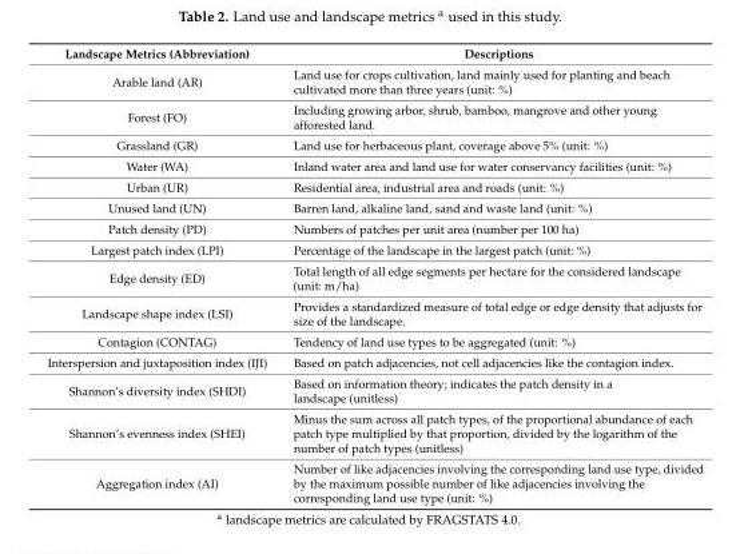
<table><thead><tr><td>Landscape Metrics (Abbreviation)</td><td>Descriptions</td></tr></thead><tbody><tr><td>Arable land (AR)</td><td>Land use for crops cultivation, land mainly used for planting and beach cultivated more than three years (unit: %)</td></tr><tr><td>Forest (FO)</td><td>Including growing arbor, shrub, bamboo, mangrove and other young afforested land.</td></tr><tr><td>Grassland (GR)</td><td>Land use for herbaceous plant, coverage above 5% (unit: %)</td></tr><tr><td>Water (WA)</td><td>Inland water area and land use for water conservancy facilities (unit: %)</td></tr><tr><td>Urban (UR)</td><td>Residential area, industrial area and roads (unit: %)</td></tr><tr><td>Unused land (UN)</td><td>Barren land, alkaline land, sand and waste land (unit: %)</td></tr><tr><td>Patch density (PD)</td><td>Numbers of patches per unit area (number per 100 ha)</td></tr><tr><td>Largest patch index (LPI)</td><td>Percentage of the landscape in the largest patch (unit: %)</td></tr><tr><td>Edge density (ED)</td><td>Total length of all edge segments per hectare for the considered landscape (unit: m/ha)</td></tr><tr><td>Landscape shape index (LSI)</td><td>Provides a standardized measure of total edge or edge density that adjusts for size of the landscape.</td></tr><tr><td>Contagion (CONTAG)</td><td>Tendency of land use types to be aggregated (unit: %)</td></tr><tr><td>Interspersion and juxtaposition index (IJI)</td><td>Based on patch adjacencies, not cell adjacencies like the contagion index.</td></tr><tr><td>Shannon’s diversity index (SHDI)</td><td>Based on information theory; indicates the patch density in a landscape (unitless)</td></tr><tr><td>Shannon’s evenness index (SHEI)</td><td>Minus the sum across all patch types, of the proportional abundance of each patch type multiplied by that proportion, divided by the logarithm of the number of patch types (unitless)</td></tr><tr><td>Aggregation index (AI)</td><td>Number of like adjacencies involving the corresponding land use type, divided by the maximum possible number of like adjacencies involving the corresponding land use type (unit: %)</td></tr></tbody></table>